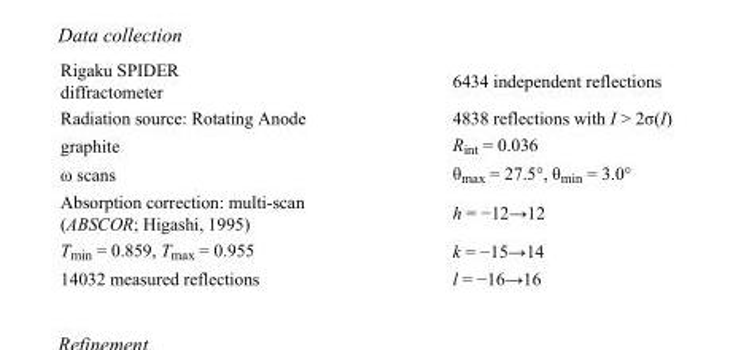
<table><tbody><tr><td>Rigaku SPIDER diffractometer</td><td>6434 independent reflections</td></tr><tr><td>Radiation source: Rotating Anode</td><td>4838 reflections with I &gt; 2σ(I)</td></tr><tr><td>graphite</td><td>R<sub>int</sub> = 0.036</td></tr><tr><td>ω scans</td><td>θ<sub>max</sub> = 27.5°, θ<sub>min</sub> = 3.0°</td></tr><tr><td>Absorption correction: multi-scan (ABSCOR; Higashi, 1995)</td><td>h = −12→12</td></tr><tr><td>T<sub>min</sub> = 0.859, T<sub>max</sub> = 0.955</td><td>k = −15→14</td></tr><tr><td>14032 measured reflections</td><td>l = −16→16</td></tr></tbody></table>